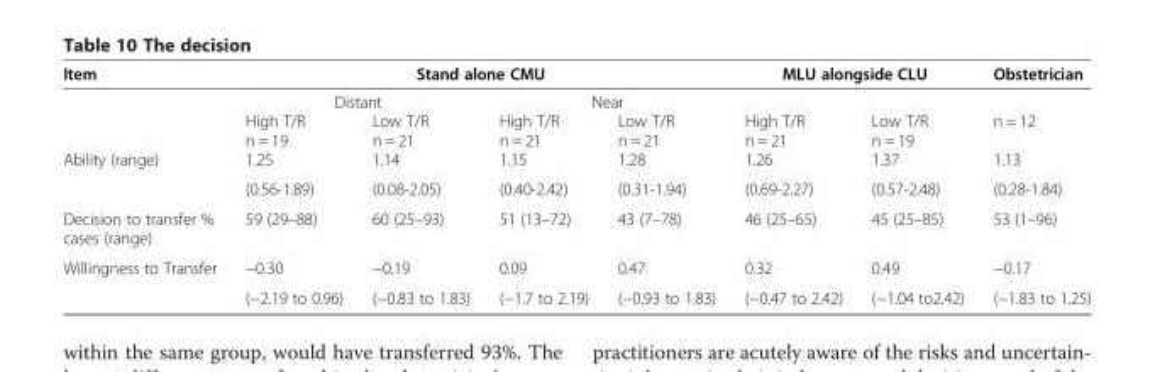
<table><thead><tr><td rowspan="4">Item</td><td colspan="4">Stand alone CMU</td><td colspan="2">MLU alongside CLU</td><td rowspan="4">Obstetrician n = 12</td></tr><tr><td colspan="2">Distant</td><td colspan="2">Near</td><td rowspan="3">High T/R n = 21</td><td rowspan="3">Low T/R n = 19</td></tr><tr><td rowspan="2">High T/R n = 19</td><td rowspan="2">Low T/R n = 21</td><td rowspan="2">High T/R n = 21</td><td rowspan="2">Low T/R n = 21</td></tr><tr></tr></thead><tbody><tr><td rowspan="2">Ability (range)</td><td>1.25</td><td>1.14</td><td>1.15</td><td>1.28</td><td>1.26</td><td>1.37</td><td>1.13</td></tr><tr><td>(0.56-1.89)</td><td>(0.08-2.05)</td><td>(0.40-2.42)</td><td>(0.31-1.94)</td><td>(0.69-2.27)</td><td>(0.57-2.48)</td><td>(0.28-1.84)</td></tr><tr><td>Decision to transfer % cases (range)</td><td>59 (29–88)</td><td>60 (25–93)</td><td>51 (13–72)</td><td>43 (7–78)</td><td>46 (25–65)</td><td>45 (25–85)</td><td>53 (1–96)</td></tr><tr><td rowspan="2">Willingness to Transfer</td><td>−0.30</td><td>−0.19</td><td>0.09</td><td>0.47</td><td>0.32</td><td>0.49</td><td>−0.17</td></tr><tr><td>(−2.19 to 0.96)</td><td>(−0.83 to 1.83)</td><td>(−1.7 to 2.19)</td><td>(−0.93 to 1.83)</td><td>(−0.47 to 2.42)</td><td>(−1.04 to2.42)</td><td>(−1.83 to 1.25)</td></tr></tbody></table>